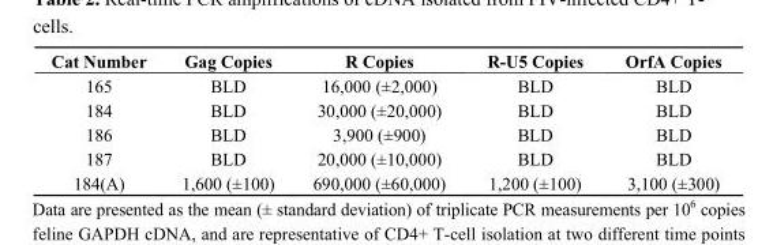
<table><thead><tr><td>Cat Number</td><td>Gag Copies</td><td>R Copies</td><td>R-U5 Copies</td><td>OrfA Copies</td></tr></thead><tbody><tr><td>165</td><td>BLD</td><td>16,000 (±2,000)</td><td>BLD</td><td>BLD</td></tr><tr><td>184</td><td>BLD</td><td>30,000 (±20,000)</td><td>BLD</td><td>BLD</td></tr><tr><td>186</td><td>BLD</td><td>3,900 (±900)</td><td>BLD</td><td>BLD</td></tr><tr><td>187</td><td>BLD</td><td>20,000 (±10,000)</td><td>BLD</td><td>BLD</td></tr><tr><td>184(A)</td><td>1,600 (±100)</td><td>690,000 (±60,000)</td><td>1,200 (±100)</td><td>3,100 (±300)</td></tr></tbody></table>